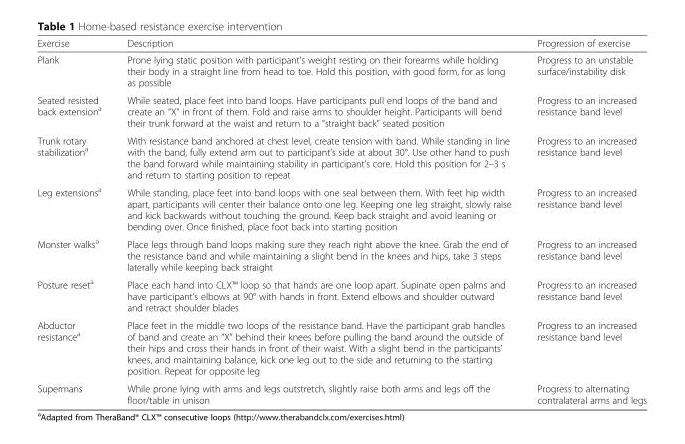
<table><thead><tr><td>Exercise</td><td>Description</td><td>Progression of exercise</td></tr></thead><tbody><tr><td>Plank</td><td>Prone lying static position with participant’s weight resting on their forearms while holding their body in a straight line from head to toe. Hold this position, with good form, for as long as possible</td><td>Progress to an unstable surface/instability disk</td></tr><tr><td>Seated resisted back extension<sup>a</sup></td><td>While seated, place feet into band loops. Have participants pull end loops of the band and create an “X” in front of them. Fold and raise arms to shoulder height. Participants will bend their trunk forward at the waist and return to a “straight back” seated position</td><td>Progress to an increased resistance band level</td></tr><tr><td>Trunk rotary stabilization<sup>a</sup></td><td>With resistance band anchored at chest level, create tension with band. While standing in line with the band, fully extend arm out to participant’s side at about 30°. Use other hand to push the band forward while maintaining stability in participant’s core. Hold this position for 2–3 s and return to starting position to repeat</td><td>Progress to an increased resistance band level</td></tr><tr><td>Leg extensions<sup>a</sup></td><td>While standing, place feet into band loops with one seal between them. With feet hip width apart, participants will center their balance onto one leg. Keeping one leg straight, slowly raise and kick backwards without touching the ground. Keep back straight and avoid leaning or bending over. Once finished, place foot back into starting position</td><td>Progress to an increased resistance band level</td></tr><tr><td>Monster walks<sup>a</sup></td><td>Place legs through band loops making sure they reach right above the knee. Grab the end of the resistance band and while maintaining a slight bend in the knees and hips, take 3 steps laterally while keeping back straight</td><td>Progress to an increased resistance band level</td></tr><tr><td>Posture reset<sup>a</sup></td><td>Place each hand into CLX™ loop so that hands are one loop apart. Supinate open palms and have participant’s elbows at 90° with hands in front. Extend elbows and shoulder outward and retract shoulder blades</td><td>Progress to an increased resistance band level</td></tr><tr><td>Abductor resistance<sup>a</sup></td><td>Place feet in the middle two loops of the resistance band. Have the participant grab handles of band and create an “X” behind their knees before pulling the band around the outside of their hips and cross their hands in front of their waist. With a slight bend in the participants’ knees, and maintaining balance, kick one leg out to the side and returning to the starting position. Repeat for opposite leg</td><td>Progress to an increased resistance band level</td></tr><tr><td>Supermans</td><td>While prone lying with arms and legs outstretch, slightly raise both arms and legs off the floor/table in unison</td><td>Progress to alternating contralateral arms and legs</td></tr></tbody></table>